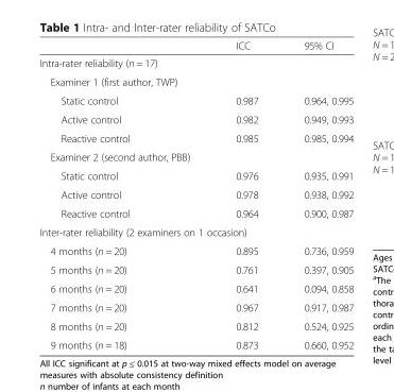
<table><thead><tr><td></td><td>ICC</td><td>95% CI</td></tr></thead><tbody><tr><td colspan="3">Intra-rater reliability (n = 17)</td></tr><tr><td colspan="3">Examiner 1 (first author, TWP)</td></tr><tr><td>Static control</td><td>0.987</td><td>0.964, 0.995</td></tr><tr><td>Active control</td><td>0.982</td><td>0.949, 0.993</td></tr><tr><td>Reactive control</td><td>0.985</td><td>0.985, 0.994</td></tr><tr><td colspan="3">Examiner 2 (second author, PBB)</td></tr><tr><td>Static control</td><td>0.976</td><td>0.935, 0.991</td></tr><tr><td>Active control</td><td>0.978</td><td>0.938, 0.992</td></tr><tr><td>Reactive control</td><td>0.964</td><td>0.900, 0.987</td></tr><tr><td colspan="3">Inter-rater reliability (2 examiners on 1 occasion)</td></tr><tr><td>4 months (n = 20)</td><td>0.895</td><td>0.736, 0.959</td></tr><tr><td>5 months (n = 20)</td><td>0.761</td><td>0.397, 0.905</td></tr><tr><td>6 months (n = 20)</td><td>0.641</td><td>0.094, 0.858</td></tr><tr><td>7 months (n = 20)</td><td>0.967</td><td>0.917, 0.987</td></tr><tr><td>8 months (n = 20)</td><td>0.812</td><td>0.524, 0.925</td></tr><tr><td>9 months (n = 18)</td><td>0.873</td><td>0.660, 0.952</td></tr></tbody></table>